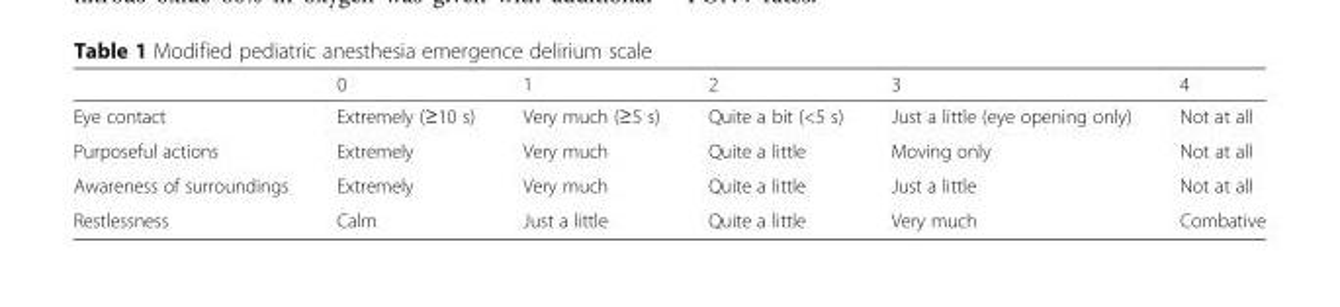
<table><thead><tr><td></td><td>0</td><td>1</td><td>2</td><td>3</td><td>4</td></tr></thead><tbody><tr><td>Eye contact</td><td>Extremely (≥10 s)</td><td>Very much (≥5 s)</td><td>Quite a bit (&lt;5 s)</td><td>Just a little (eye opening only)</td><td>Not at all</td></tr><tr><td>Purposeful actions</td><td>Extremely</td><td>Very much</td><td>Quite a little</td><td>Moving only</td><td>Not at all</td></tr><tr><td>Awareness of surroundings</td><td>Extremely</td><td>Very much</td><td>Quite a little</td><td>Just a little</td><td>Not at all</td></tr><tr><td>Restlessness</td><td>Calm</td><td>Just a little</td><td>Quite a little</td><td>Very much</td><td>Combative</td></tr></tbody></table>